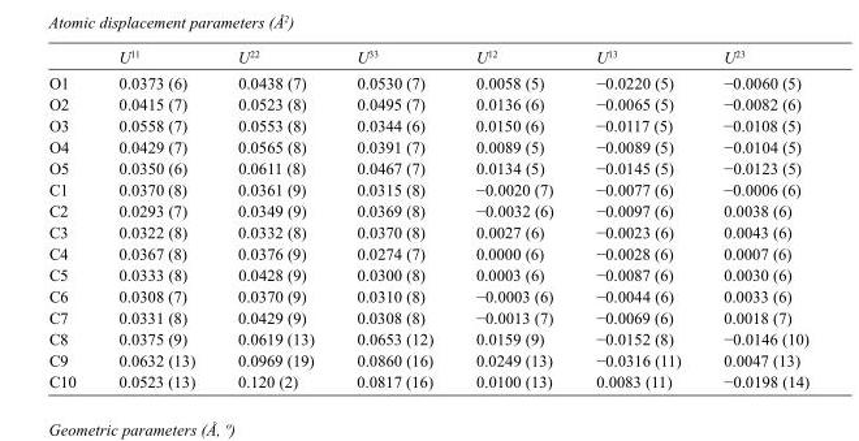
<table><thead><tr><td></td><td>U<sup>11</sup></td><td>U<sup>22</sup></td><td>U<sup>33</sup></td><td>U<sup>12</sup></td><td>U<sup>13</sup></td><td>U<sup>23</sup></td></tr></thead><tbody><tr><td>O1</td><td>0.0373 (6)</td><td>0.0438 (7)</td><td>0.0530 (7)</td><td>0.0058 (5)</td><td>−0.0220 (5)</td><td>−0.0060 (5)</td></tr><tr><td>O2</td><td>0.0415 (7)</td><td>0.0523 (8)</td><td>0.0495 (7)</td><td>0.0136 (6)</td><td>−0.0065 (5)</td><td>−0.0082 (6)</td></tr><tr><td>O3</td><td>0.0558 (7)</td><td>0.0553 (8)</td><td>0.0344 (6)</td><td>0.0150 (6)</td><td>−0.0117 (5)</td><td>−0.0108 (5)</td></tr><tr><td>O4</td><td>0.0429 (7)</td><td>0.0565 (8)</td><td>0.0391 (7)</td><td>0.0089 (5)</td><td>−0.0089 (5)</td><td>−0.0104 (5)</td></tr><tr><td>O5</td><td>0.0350 (6)</td><td>0.0611 (8)</td><td>0.0467 (7)</td><td>0.0134 (5)</td><td>−0.0145 (5)</td><td>−0.0123 (5)</td></tr><tr><td>C1</td><td>0.0370 (8)</td><td>0.0361 (9)</td><td>0.0315 (8)</td><td>−0.0020 (7)</td><td>−0.0077 (6)</td><td>−0.0006 (6)</td></tr><tr><td>C2</td><td>0.0293 (7)</td><td>0.0349 (9)</td><td>0.0369 (8)</td><td>−0.0032 (6)</td><td>−0.0097 (6)</td><td>0.0038 (6)</td></tr><tr><td>C3</td><td>0.0322 (8)</td><td>0.0332 (8)</td><td>0.0370 (8)</td><td>0.0027 (6)</td><td>−0.0023 (6)</td><td>0.0043 (6)</td></tr><tr><td>C4</td><td>0.0367 (8)</td><td>0.0376 (9)</td><td>0.0274 (7)</td><td>0.0000 (6)</td><td>−0.0028 (6)</td><td>0.0007 (6)</td></tr><tr><td>C5</td><td>0.0333 (8)</td><td>0.0428 (9)</td><td>0.0300 (8)</td><td>0.0003 (6)</td><td>−0.0087 (6)</td><td>0.0030 (6)</td></tr><tr><td>C6</td><td>0.0308 (7)</td><td>0.0370 (9)</td><td>0.0310 (8)</td><td>−0.0003 (6)</td><td>−0.0044 (6)</td><td>0.0033 (6)</td></tr><tr><td>C7</td><td>0.0331 (8)</td><td>0.0429 (9)</td><td>0.0308 (8)</td><td>−0.0013 (7)</td><td>−0.0069 (6)</td><td>0.0018 (7)</td></tr><tr><td>C8</td><td>0.0375 (9)</td><td>0.0619 (13)</td><td>0.0653 (12)</td><td>0.0159 (9)</td><td>−0.0152 (8)</td><td>−0.0146 (10)</td></tr><tr><td>C9</td><td>0.0632 (13)</td><td>0.0969 (19)</td><td>0.0860 (16)</td><td>0.0249 (13)</td><td>−0.0316 (11)</td><td>0.0047 (13)</td></tr><tr><td>C10</td><td>0.0523 (13)</td><td>0.120 (2)</td><td>0.0817 (16)</td><td>0.0100 (13)</td><td>0.0083 (11)</td><td>−0.0198 (14)</td></tr></tbody></table>